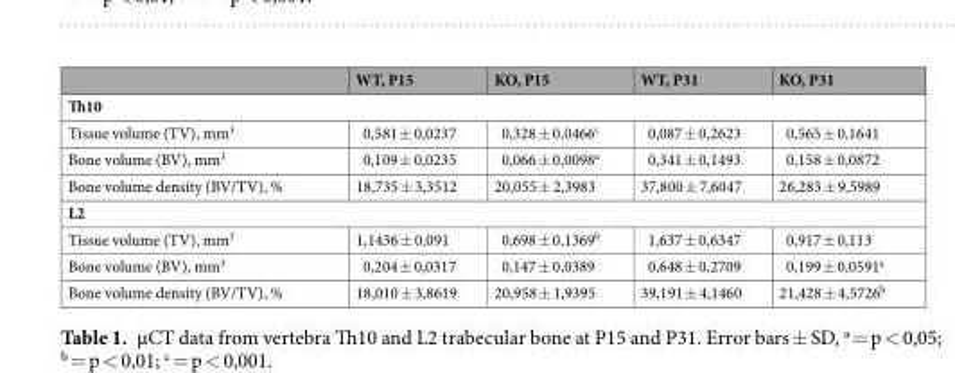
<table><thead><tr><td></td><td>WT, P15</td><td>KO, P15</td><td>WT, P31</td><td>KO, P31</td></tr></thead><tbody><tr><td colspan="5">Th10</td></tr><tr><td>Tissue volume (TV), mm<sup>3</sup></td><td>0,581 ± 0,0237</td><td>0,328 ± 0,0466<sup>c</sup></td><td>0,087 ± 0,2623</td><td>0,565 ± 0,1641</td></tr><tr><td>Bone volume (BV), mm<sup>3</sup></td><td>0,109 ± 0,0235</td><td>0,066 ± 0,0098<sup>a</sup></td><td>0,341 ± 0,1493</td><td>0,158 ± 0,0872</td></tr><tr><td>Bone volume density (BV/TV), %</td><td>18,735 ± 3,3512</td><td>20,055 ± 2,3983</td><td>37,800 ± 7,6047</td><td>26,283 ± 9,5989</td></tr><tr><td colspan="5">L2</td></tr><tr><td>Tissue volume (TV), mm<sup>3</sup></td><td>1,1436 ± 0,091</td><td>0,698 ± 0,1369<sup>b</sup></td><td>1,637 ± 0,6347</td><td>0,917 ± 0,113</td></tr><tr><td>Bone volume (BV), mm<sup>3</sup></td><td>0,204 ± 0,0317</td><td>0,147 ± 0,0389</td><td>0,648 ± 0,2709</td><td>0,199 ± 0,0591<sup>a</sup></td></tr><tr><td>Bone volume density (BV/TV), %</td><td>18,010 ± 3,8619</td><td>20,958 ± 1,9395</td><td>39,191 ± 4,1460</td><td>21,428 ± 4,5726<sup>b</sup></td></tr></tbody></table>